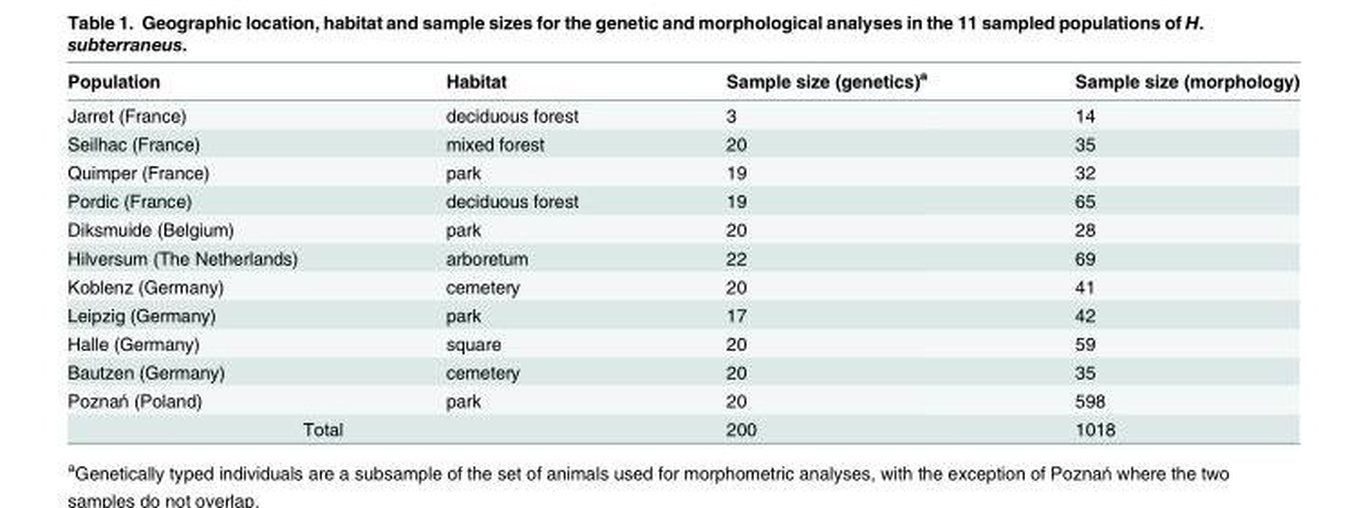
<table><thead><tr><td>Population</td><td>Habitat</td><td>Sample size (genetics)<sup>a</sup></td><td>Sample size (morphology)</td></tr></thead><tbody><tr><td>Jarret (France)</td><td>deciduous forest</td><td>3</td><td>14</td></tr><tr><td>Seilhac (France)</td><td>mixed forest</td><td>20</td><td>35</td></tr><tr><td>Quimper (France)</td><td>park</td><td>19</td><td>32</td></tr><tr><td>Pordic (France)</td><td>deciduous forest</td><td>19</td><td>65</td></tr><tr><td>Diksmuide (Belgium)</td><td>park</td><td>20</td><td>28</td></tr><tr><td>Hilversum (The Netherlands)</td><td>arboretum</td><td>22</td><td>69</td></tr><tr><td>Koblenz (Germany)</td><td>cemetery</td><td>20</td><td>41</td></tr><tr><td>Leipzig (Germany)</td><td>park</td><td>17</td><td>42</td></tr><tr><td>Halle (Germany)</td><td>square</td><td>20</td><td>59</td></tr><tr><td>Bautzen (Germany)</td><td>cemetery</td><td>20</td><td>35</td></tr><tr><td>Poznań (Poland)</td><td>park</td><td>20</td><td>598</td></tr><tr><td colspan="2">Total</td><td>200</td><td>1018</td></tr></tbody></table>